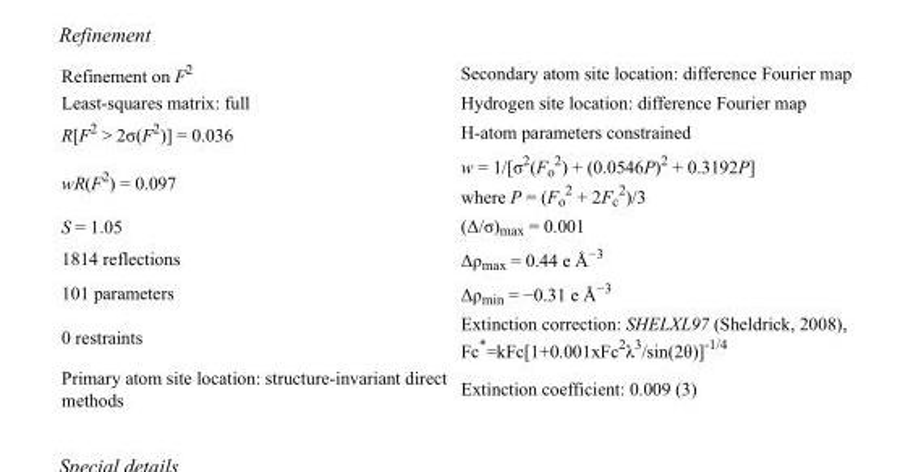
<table><tbody><tr><td>Refinement on F<sup>2</sup></td><td>Secondary atom site location: difference Fourier map</td></tr><tr><td>Least-squares matrix: full</td><td>Hydrogen site location: difference Fourier map</td></tr><tr><td>R[F<sup>2</sup> &gt; 2σ(F<sup>2</sup>)] = 0.036</td><td>H-atom parameters constrained</td></tr><tr><td>wR(F<sup>2</sup>) = 0.097</td><td>w = 1/[σ<sup>2</sup>(F<sub>o</sub> <sup>2</sup>) + (0.0546P)<sup>2</sup> + 0.3192P] where P = (F<sub>o</sub> <sup>2</sup> + 2F<sub>c</sub> <sup>2</sup>)/3</td></tr><tr><td>S = 1.05</td><td>(Δ/σ)<sub>max</sub> = 0.001</td></tr><tr><td>1814 reflections</td><td>Δρ<sub>max</sub> = 0.44 e Å<sup>−3</sup></td></tr><tr><td>101 parameters</td><td>Δρ<sub>min</sub> = −0.31 e Å<sup>−3</sup></td></tr><tr><td>0 restraints</td><td>Extinction correction: SHELXL97 (Sheldrick, 2008), Fc*=kFc[1+0.001xFc<sup>2</sup>λ<sup>3</sup>/sin(2θ)]<sup>-1/4</sup></td></tr><tr><td>Primary atom site location: structure-invariant direct methods</td><td>Extinction coefficient: 0.009 (3)</td></tr></tbody></table>